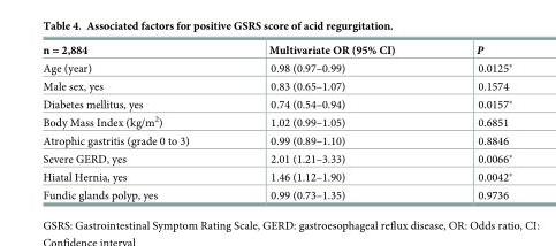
<table><thead><tr><td>n = 2,884</td><td>Multivariate OR (95% CI)</td><td>P</td></tr></thead><tbody><tr><td>Age (year)</td><td>0.98 (0.97–0.99)</td><td>0.0125*</td></tr><tr><td>Male sex, yes</td><td>0.83 (0.65–1.07)</td><td>0.1574</td></tr><tr><td>Diabetes mellitus, yes</td><td>0.74 (0.54–0.94)</td><td>0.0157*</td></tr><tr><td>Body Mass Index (kg/m<sup>2</sup>)</td><td>1.02 (0.99–1.05)</td><td>0.6851</td></tr><tr><td>Atrophic gastritis (grade 0 to 3)</td><td>0.99 (0.89–1.10)</td><td>0.8846</td></tr><tr><td>Severe GERD, yes</td><td>2.01 (1.21–3.33)</td><td>0.0066*</td></tr><tr><td>Hiatal Hernia, yes</td><td>1.46 (1.12–1.90)</td><td>0.0042*</td></tr><tr><td>Fundic glands polyp, yes</td><td>0.99 (0.73–1.35)</td><td>0.9736</td></tr></tbody></table>